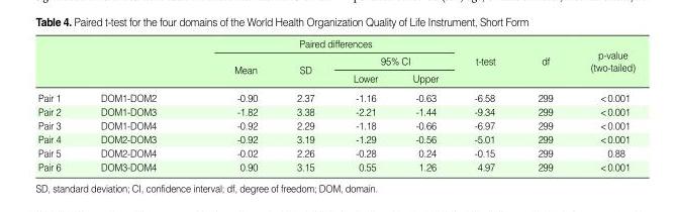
<table><thead><tr><td rowspan="3"></td><td rowspan="3"></td><td colspan="4">Paired differences</td><td rowspan="3">t-test</td><td rowspan="3">df</td><td rowspan="3">p-value (two-tailed)</td></tr><tr><td rowspan="2">Mean</td><td rowspan="2">SD</td><td colspan="2">95% CI</td></tr><tr><td>Lower</td><td>Upper</td></tr></thead><tbody><tr><td>Pair 1</td><td>DOM1-DOM2</td><td>-0.90</td><td>2.37</td><td>-1.16</td><td>-0.63</td><td>-6.58</td><td>299</td><td>&lt;0.001</td></tr><tr><td>Pair 2</td><td>DOM1-DOM3</td><td>-1.82</td><td>3.38</td><td>-2.21</td><td>-1.44</td><td>-9.34</td><td>299</td><td>&lt;0.001</td></tr><tr><td>Pair 3</td><td>DOM1-DOM4</td><td>-0.92</td><td>2.29</td><td>-1.18</td><td>-0.66</td><td>-6.97</td><td>299</td><td>&lt;0.001</td></tr><tr><td>Pair 4</td><td>DOM2-DOM3</td><td>-0.92</td><td>3.19</td><td>-1.29</td><td>-0.56</td><td>-5.01</td><td>299</td><td>&lt;0.001</td></tr><tr><td>Pair 5</td><td>DOM2-DOM4</td><td>-0.02</td><td>2.26</td><td>-0.28</td><td>0.24</td><td>-0.15</td><td>299</td><td>0.88</td></tr><tr><td>Pair 6</td><td>DOM3-DOM4</td><td>0.90</td><td>3.15</td><td>0.55</td><td>1.26</td><td>4.97</td><td>299</td><td>&lt;0.001</td></tr></tbody></table>